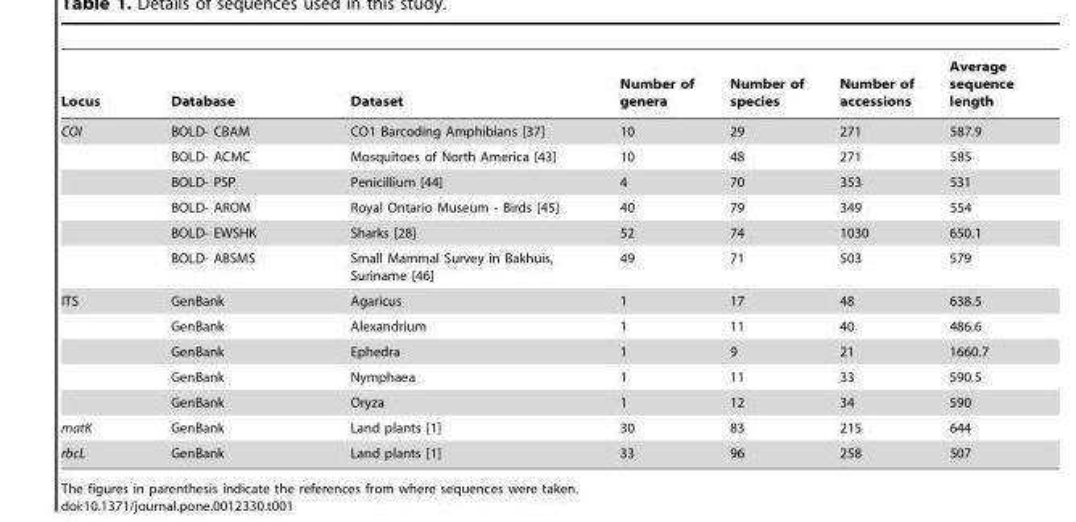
<table><thead><tr><td>Locus</td><td>Database</td><td>Dataset</td><td>Number of genera</td><td>Number of species</td><td>Number of accessions</td><td>Average sequence length</td></tr></thead><tbody><tr><td rowspan="6">COI</td><td>BOLD- CBAM</td><td>CO1 Barcoding Amphibians [37]</td><td>10</td><td>29</td><td>271</td><td>587.9</td></tr><tr><td>BOLD- ACMC</td><td>Mosquitoes of North America [43]</td><td>10</td><td>48</td><td>271</td><td>585</td></tr><tr><td>BOLD- PSP</td><td>Penicillium [44]</td><td>4</td><td>70</td><td>353</td><td>531</td></tr><tr><td>BOLD- AROM</td><td>Royal Ontario Museum - Birds [45]</td><td>40</td><td>79</td><td>349</td><td>554</td></tr><tr><td>BOLD- EWSHK</td><td>Sharks [28]</td><td>52</td><td>74</td><td>1030</td><td>650.1</td></tr><tr><td>BOLD- ABSMS</td><td>Small Mammal Survey in Bakhuis, Suriname [46]</td><td>49</td><td>71</td><td>503</td><td>579</td></tr><tr><td rowspan="5">ITS</td><td>GenBank</td><td>Agaricus</td><td>1</td><td>17</td><td>48</td><td>638.5</td></tr><tr><td>GenBank</td><td>Alexandrium</td><td>1</td><td>11</td><td>40</td><td>486.6</td></tr><tr><td>GenBank</td><td>Ephedra</td><td>1</td><td>9</td><td>21</td><td>1660.7</td></tr><tr><td>GenBank</td><td>Nymphaea</td><td>1</td><td>11</td><td>33</td><td>590.5</td></tr><tr><td>GenBank</td><td>Oryza</td><td>1</td><td>12</td><td>34</td><td>590</td></tr><tr><td>matK</td><td>GenBank</td><td>Land plants [1]</td><td>30</td><td>83</td><td>215</td><td>644</td></tr><tr><td>rbcL</td><td>GenBank</td><td>Land plants [1]</td><td>33</td><td>96</td><td>258</td><td>507</td></tr></tbody></table>